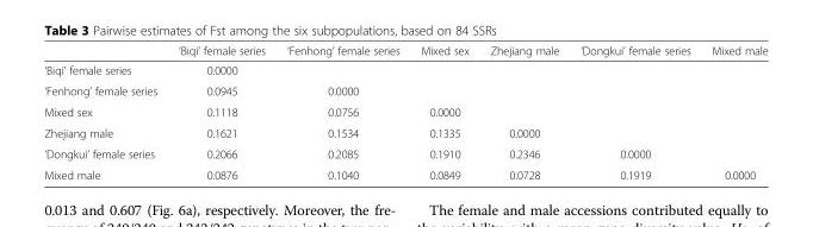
<table><thead><tr><td></td><td>‘Biqi’ female series</td><td>‘Fenhong’ female series</td><td>Mixed sex</td><td>Zhejiang male</td><td>‘Dongkui’ female series</td><td>Mixed male</td></tr></thead><tbody><tr><td>‘Biqi’ female series</td><td>0.0000</td><td></td><td></td><td></td><td></td><td></td></tr><tr><td>‘Fenhong’ female series</td><td>0.0945</td><td>0.0000</td><td></td><td></td><td></td><td></td></tr><tr><td>Mixed sex</td><td>0.1118</td><td>0.0756</td><td>0.0000</td><td></td><td></td><td></td></tr><tr><td>Zhejiang male</td><td>0.1621</td><td>0.1534</td><td>0.1335</td><td>0.0000</td><td></td><td></td></tr><tr><td>‘Dongkui’ female series</td><td>0.2066</td><td>0.2085</td><td>0.1910</td><td>0.2346</td><td>0.0000</td><td></td></tr><tr><td>Mixed male</td><td>0.0876</td><td>0.1040</td><td>0.0849</td><td>0.0728</td><td>0.1919</td><td>0.0000</td></tr></tbody></table>